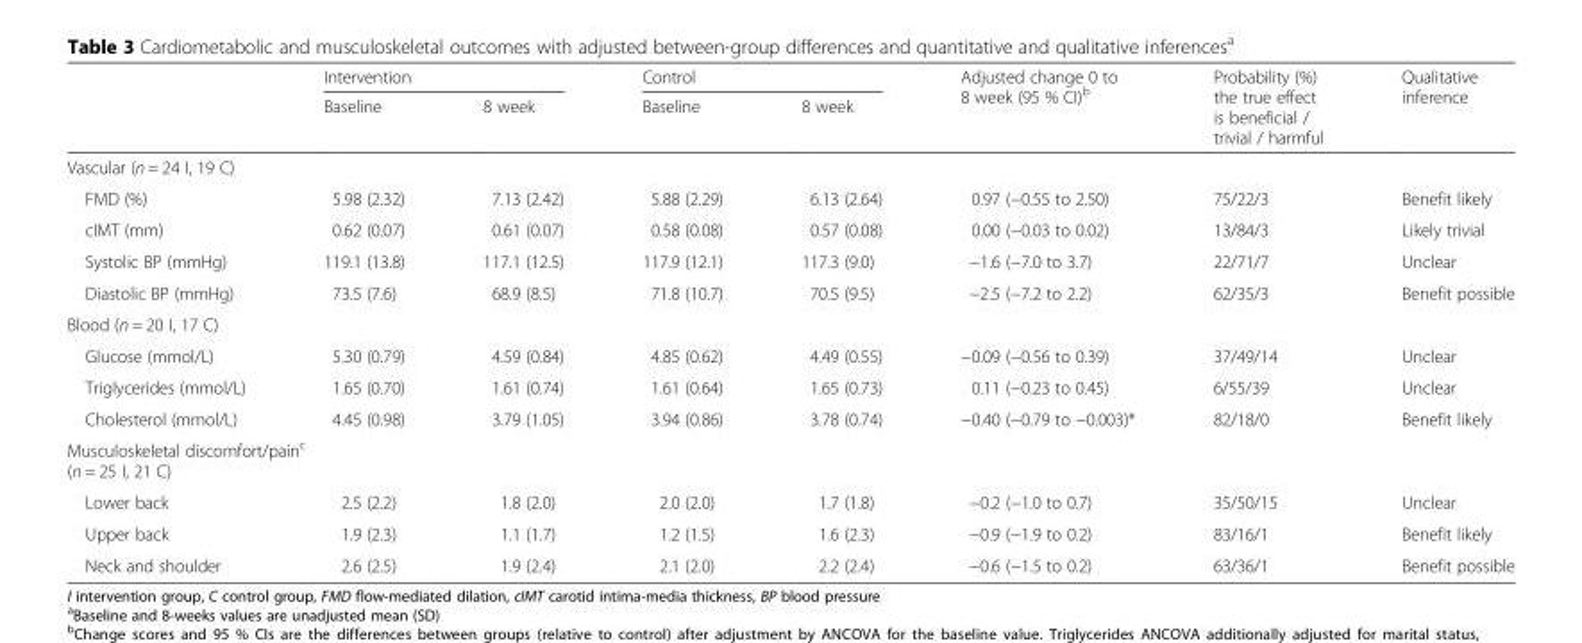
<table><thead><tr><td rowspan="2"></td><td colspan="2">Intervention</td><td colspan="2">Control</td><td rowspan="2">Adjusted change 0 to 8 week (95 % CI)<sup>b</sup></td><td rowspan="2">Probability (%) the true effect is beneficial / trivial / harmful</td><td rowspan="2">Qualitative inference</td></tr><tr><td>Baseline</td><td>8 week</td><td>Baseline</td><td>8 week</td></tr></thead><tbody><tr><td colspan="8">Vascular (n = 24 I, 19 C)</td></tr><tr><td>FMD (%)</td><td>5.98 (2.32)</td><td>7.13 (2.42)</td><td>5.88 (2.29)</td><td>6.13 (2.64)</td><td>0.97 (−0.55 to 2.50)</td><td>75/22/3</td><td>Benefit likely</td></tr><tr><td>cIMT (mm)</td><td>0.62 (0.07)</td><td>0.61 (0.07)</td><td>0.58 (0.08)</td><td>0.57 (0.08)</td><td>0.00 (−0.03 to 0.02)</td><td>13/84/3</td><td>Likely trivial</td></tr><tr><td>Systolic BP (mmHg)</td><td>119.1 (13.8)</td><td>117.1 (12.5)</td><td>117.9 (12.1)</td><td>117.3 (9.0)</td><td>−1.6 (−7.0 to 3.7)</td><td>22/71/7</td><td>Unclear</td></tr><tr><td>Diastolic BP (mmHg)</td><td>73.5 (7.6)</td><td>68.9 (8.5)</td><td>71.8 (10.7)</td><td>70.5 (9.5)</td><td>−2.5 (−7.2 to 2.2)</td><td>62/35/3</td><td>Benefit possible</td></tr><tr><td colspan="8">Blood (n = 20 I, 17 C)</td></tr><tr><td>Glucose (mmol/L)</td><td>5.30 (0.79)</td><td>4.59 (0.84)</td><td>4.85 (0.62)</td><td>4.49 (0.55)</td><td>−0.09 (−0.56 to 0.39)</td><td>37/49/14</td><td>Unclear</td></tr><tr><td>Triglycerides (mmol/L)</td><td>1.65 (0.70)</td><td>1.61 (0.74)</td><td>1.61 (0.64)</td><td>1.65 (0.73)</td><td>0.11 (−0.23 to 0.45)</td><td>6/55/39</td><td>Unclear</td></tr><tr><td>Cholesterol (mmol/L)</td><td>4.45 (0.98)</td><td>3.79 (1.05)</td><td>3.94 (0.86)</td><td>3.78 (0.74)</td><td>−0.40 (−0.79 to −0.003)*</td><td>82/18/0</td><td>Benefit likely</td></tr><tr><td colspan="8">Musculoskeletal discomfort/pain<sup>c</sup> (n = 25 I, 21 C)</td></tr><tr><td>Lower back</td><td>2.5 (2.2)</td><td>1.8 (2.0)</td><td>2.0 (2.0)</td><td>1.7 (1.8)</td><td>−0.2 (−1.0 to 0.7)</td><td>35/50/15</td><td>Unclear</td></tr><tr><td>Upper back</td><td>1.9 (2.3)</td><td>1.1 (1.7)</td><td>1.2 (1.5)</td><td>1.6 (2.3)</td><td>−0.9 (−1.9 to 0.2)</td><td>83/16/1</td><td>Benefit likely</td></tr><tr><td>Neck and shoulder</td><td>2.6 (2.5)</td><td>1.9 (2.4)</td><td>2.1 (2.0)</td><td>2.2 (2.4)</td><td>−0.6 (−1.5 to 0.2)</td><td>63/36/1</td><td>Benefit possible</td></tr></tbody></table>